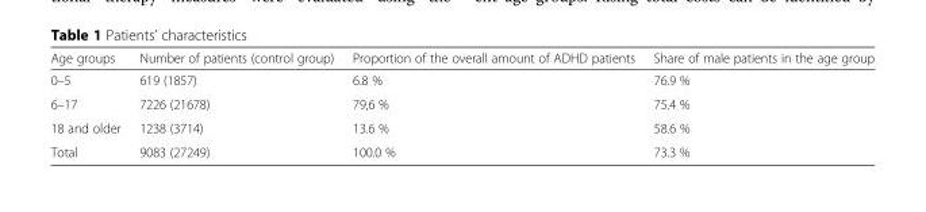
<table><thead><tr><td>Age groups</td><td>Number of patients (control group)</td><td>Proportion of the overall amount of ADHD patients</td><td>Share of male patients in the age group</td></tr></thead><tbody><tr><td>0–5</td><td>619 (1857)</td><td>6.8 %</td><td>76.9 %</td></tr><tr><td>6–17</td><td>7226 (21678)</td><td>79,6 %</td><td>75.4 %</td></tr><tr><td>18 and older</td><td>1238 (3714)</td><td>13.6 %</td><td>58.6 %</td></tr><tr><td>Total</td><td>9083 (27249)</td><td>100.0 %</td><td>73.3 %</td></tr></tbody></table>